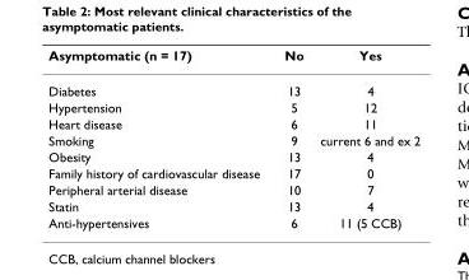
<table><thead><tr><td>Asymptomatic (n = 17)</td><td>No</td><td>Yes</td></tr></thead><tbody><tr><td>Diabetes</td><td>13</td><td>4</td></tr><tr><td>Hypertension</td><td>5</td><td>12</td></tr><tr><td>Heart disease</td><td>6</td><td>11</td></tr><tr><td>Smoking</td><td>9</td><td>current 6 and ex 2</td></tr><tr><td>Obesity</td><td>13</td><td>4</td></tr><tr><td>Family history of cardiovascular disease</td><td>17</td><td>0</td></tr><tr><td>Peripheral arterial disease</td><td>10</td><td>7</td></tr><tr><td>Statin</td><td>13</td><td>4</td></tr><tr><td>Anti-hypertensives</td><td>6</td><td>11 (5 CCB)</td></tr></tbody></table>